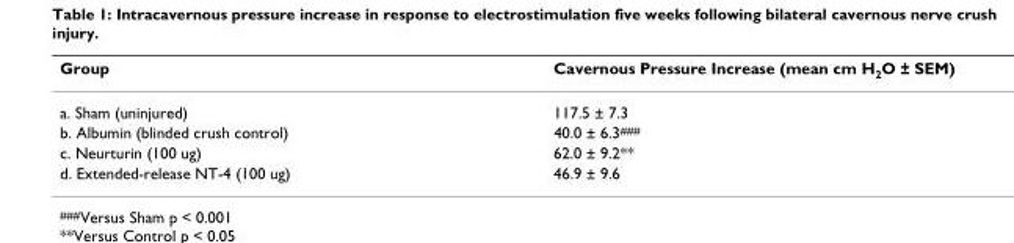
<table><thead><tr><td>Group</td><td>Cavernous Pressure Increase (mean cm H<sub>2</sub>O ± SEM)</td></tr></thead><tbody><tr><td>a. Sham (uninjured)</td><td>117.5 ± 7.3</td></tr><tr><td>b. Albumin (blinded crush control)</td><td>40.0 ± 6.3<sup>###</sup></td></tr><tr><td>c. Neurturin (100 ug)</td><td>62.0 ± 9.2**</td></tr><tr><td>d. Extended-release NT-4 (100 ug)</td><td>46.9 ± 9.6</td></tr></tbody></table>